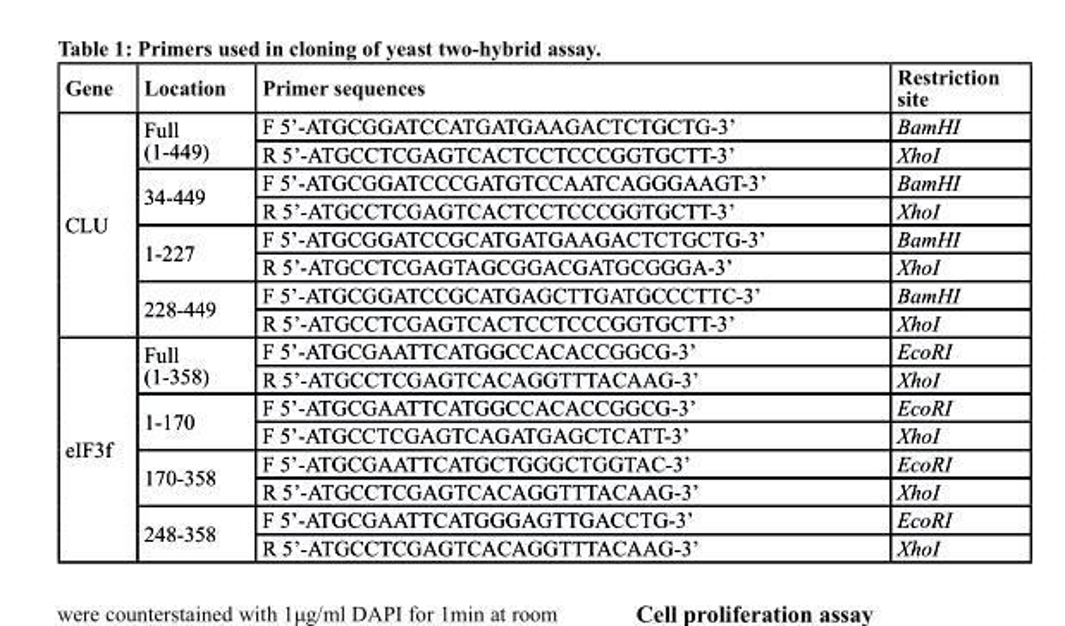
<table><thead><tr><td>Gene</td><td>location</td><td>Primer sequences</td><td>restriction site</td></tr></thead><tbody><tr><td rowspan="8">CLU</td><td rowspan="2">Full (1-449)</td><td>F 5’-ATGCGGATCCATGATGAAGACTCTGCTG-3’</td><td>BamHI</td></tr><tr><td>R 5’-ATGCCTCGAGTCACTCCTCCCGGTGCTT-3’</td><td>XhoI</td></tr><tr><td rowspan="2">34-449</td><td>F 5’-ATGCGGATCCCGATGTCCAATCAGGGAAGT-3’</td><td>BamHI</td></tr><tr><td>R 5’-ATGCCTCGAGTCACTCCTCCCGGTGCTT-3’</td><td>XhoI</td></tr><tr><td rowspan="2">1-227</td><td>F 5’-ATGCGGATCCGCATGATGAAGACTCTGCTG-3’</td><td>BamHI</td></tr><tr><td>R 5’-ATGCCTCGAGTAGCGGACGATGCGGGA-3’</td><td>XhoI</td></tr><tr><td rowspan="2">228-449</td><td>F 5’-ATGCGGATCCGCATGAGCTTGATGCCCTTC-3’</td><td>BamHI</td></tr><tr><td>R 5’-ATGCCTCGAGTCACTCCTCCCGGTGCTT-3’</td><td>XhoI</td></tr><tr><td rowspan="8">eIF3f</td><td rowspan="2">Full (1-358)</td><td>F 5’-ATGCGAATTCATGGCCACACCGGCG-3’</td><td>EcoRI</td></tr><tr><td>R 5’-ATGCCTCGAGTCACAGGTTTACAAG-3’</td><td>XhoI</td></tr><tr><td rowspan="2">1-170</td><td>F 5’-ATGCGAATTCATGGCCACACCGGCG-3’</td><td>EcoRI</td></tr><tr><td>F 5’-ATGCCTCGAGTCAGATGAGCTCATT-3’</td><td>XhoI</td></tr><tr><td rowspan="2">170-358</td><td>F 5’-ATGCGAATTCATGCTGGGCTGGTAC-3’</td><td>EcoRI</td></tr><tr><td>R 5’-ATGCCTCGAGTCACAGGTTTACAAG-3’</td><td>XhoI</td></tr><tr><td rowspan="2">248-358</td><td>F 5’-ATGCGAATTCATGGGAGTTGACCTG-3’</td><td>EcoRI</td></tr><tr><td>R 5’-ATGCCTCGAGTCACAGGTTTACAAG-3’</td><td>XhoI</td></tr></tbody></table>